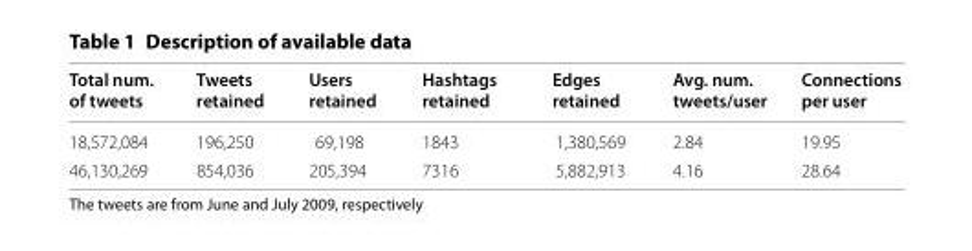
<table><thead><tr><td>Total num. of tweets</td><td>Tweets retained</td><td>Users retained</td><td>Hashtags retained</td><td>Edges retained</td><td>Avg. num. tweets/user</td><td>Connections per user</td></tr></thead><tbody><tr><td>18,572,084</td><td>196,250</td><td>69,198</td><td>1843</td><td>1,380,569</td><td>2.84</td><td>19.95</td></tr><tr><td>46,130,269</td><td>854,036</td><td>205,394</td><td>7316</td><td>5,882,913</td><td>4.16</td><td>28.64</td></tr></tbody></table>